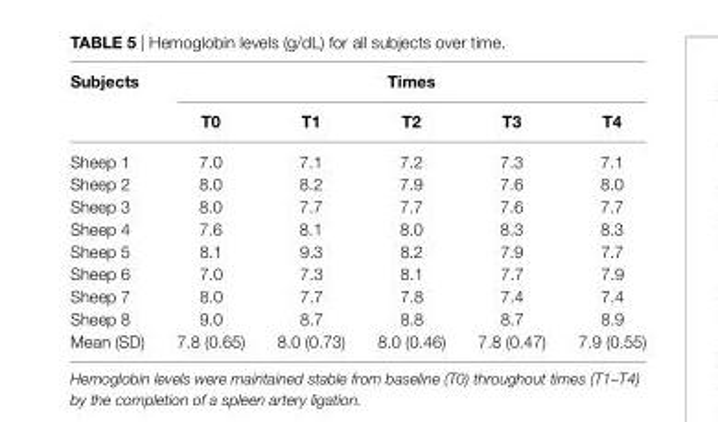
<table><thead><tr><td rowspan="2">subjects</td><td colspan="5">Times</td></tr><tr><td>T0</td><td>T1</td><td>T2</td><td>T3</td><td>T4</td></tr></thead><tbody><tr><td>Sheep 1</td><td>7.0</td><td>7.1</td><td>7.2</td><td>7.3</td><td>7.1</td></tr><tr><td>Sheep 2</td><td>8.0</td><td>8.2</td><td>7.9</td><td>7.6</td><td>8.0</td></tr><tr><td>Sheep 3</td><td>8.0</td><td>7.7</td><td>7.7</td><td>7.6</td><td>7.7</td></tr><tr><td>Sheep 4</td><td>7.6</td><td>8.1</td><td>8.0</td><td>8.3</td><td>8.3</td></tr><tr><td>Sheep 5</td><td>8.1</td><td>9.3</td><td>8.2</td><td>7.9</td><td>7.7</td></tr><tr><td>Sheep 6</td><td>7.0</td><td>7.3</td><td>8.1</td><td>7.7</td><td>7.9</td></tr><tr><td>Sheep 7</td><td>8.0</td><td>7.7</td><td>7.8</td><td>7.4</td><td>7.4</td></tr><tr><td>Sheep 8</td><td>9.0</td><td>8.7</td><td>8.8</td><td>8.7</td><td>8.9</td></tr><tr><td>Mean (SD)</td><td>7.8 (0.65)</td><td>8.0 (0.73)</td><td>8.0 (0.46)</td><td>7.8 (0.47)</td><td>7.9 (0.55)</td></tr></tbody></table>